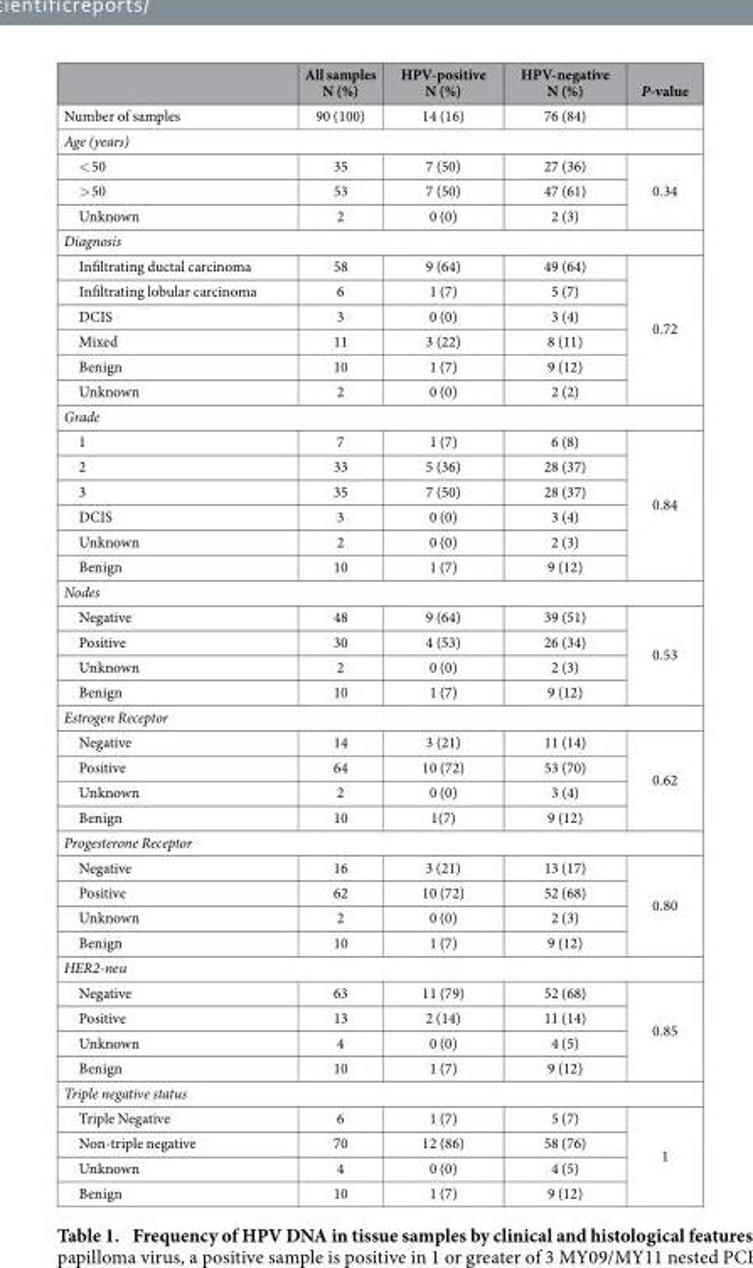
<table><thead><tr><td></td><td>All samples N (%)</td><td>HPV-positive N (%)</td><td>HPV-negative N (%)</td><td>P-value</td></tr></thead><tbody><tr><td>Number of samples</td><td>90 (100)</td><td>14 (16)</td><td>76 (84)</td><td></td></tr><tr><td colspan="5">Age (years)</td></tr><tr><td>&lt; 50</td><td>35</td><td>7 (50)</td><td>27 (36)</td><td rowspan="3">0.34</td></tr><tr><td>&gt; 50</td><td>53</td><td>7 (50)</td><td>47 (61)</td></tr><tr><td>Unknown</td><td>2</td><td>0 (0)</td><td>2 (3)</td></tr><tr><td colspan="5">Diagnosis</td></tr><tr><td>Infiltrating ductal carcinoma</td><td>58</td><td>9 (64)</td><td>49 (64)</td><td rowspan="6">0.72</td></tr><tr><td>Infiltrating lobular carcinoma</td><td>6</td><td>1 (7)</td><td>5 (7)</td></tr><tr><td>DCIS</td><td>3</td><td>0 (0)</td><td>3 (4)</td></tr><tr><td>Mixed</td><td>11</td><td>3 (22)</td><td>8 (11)</td></tr><tr><td>Benign</td><td>10</td><td>1 (7)</td><td>9 (12)</td></tr><tr><td>Unknown</td><td>2</td><td>0 (0)</td><td>2 (2)</td></tr><tr><td colspan="5">Grade</td></tr><tr><td>1</td><td>7</td><td>1 (7)</td><td>6 (8)</td><td rowspan="6">0.84</td></tr><tr><td>2</td><td>33</td><td>5 (36)</td><td>28 (37)</td></tr><tr><td>3</td><td>35</td><td>7 (50)</td><td>28 (37)</td></tr><tr><td>DCIS</td><td>3</td><td>0 (0)</td><td>3 (4)</td></tr><tr><td>Unknown</td><td>2</td><td>0 (0)</td><td>2 (3)</td></tr><tr><td>Benign</td><td>10</td><td>1 (7)</td><td>9 (12)</td></tr><tr><td colspan="5">Nodes</td></tr><tr><td>Negative</td><td>48</td><td>9 (64)</td><td>39 (51)</td><td rowspan="4">0.53</td></tr><tr><td>Positive</td><td>30</td><td>4 (53)</td><td>26 (34)</td></tr><tr><td>Unknown</td><td>2</td><td>0 (0)</td><td>2 (3)</td></tr><tr><td>Benign</td><td>10</td><td>1 (7)</td><td>9 (12)</td></tr><tr><td colspan="5">Estrogen Receptor</td></tr><tr><td>Negative</td><td>14</td><td>3 (21)</td><td>11 (14)</td><td rowspan="4">0.62</td></tr><tr><td>Positive</td><td>64</td><td>10 (72)</td><td>53 (70)</td></tr><tr><td>Unknown</td><td>2</td><td>0 (0)</td><td>3 (4)</td></tr><tr><td>Benign</td><td>10</td><td>1(7)</td><td>9 (12)</td></tr><tr><td colspan="5">Progesterone Receptor</td></tr><tr><td>Negative</td><td>16</td><td>3 (21)</td><td>13 (17)</td><td rowspan="4">0.80</td></tr><tr><td>Positive</td><td>62</td><td>10 (72)</td><td>52 (68)</td></tr><tr><td>Unknown</td><td>2</td><td>0 (0)</td><td>2 (3)</td></tr><tr><td>Benign</td><td>10</td><td>1 (7)</td><td>9 (12)</td></tr><tr><td colspan="5">HER2-neu</td></tr><tr><td>Negative</td><td>63</td><td>11 (79)</td><td>52 (68)</td><td rowspan="4">0.85</td></tr><tr><td>Positive</td><td>13</td><td>2 (14)</td><td>11 (14)</td></tr><tr><td>Unknown</td><td>4</td><td>0 (0)</td><td>4 (5)</td></tr><tr><td>Benign</td><td>10</td><td>1 (7)</td><td>9 (12)</td></tr><tr><td colspan="5">Triple negative status</td></tr><tr><td>Triple Negative</td><td>6</td><td>1 (7)</td><td>5 (7)</td><td rowspan="4">1</td></tr><tr><td>Non-triple negative</td><td>70</td><td>12 (86)</td><td>58 (76)</td></tr><tr><td>Unknown</td><td>4</td><td>0 (0)</td><td>4 (5)</td></tr><tr><td>Benign</td><td>10</td><td>1 (7)</td><td>9 (12)</td></tr></tbody></table>